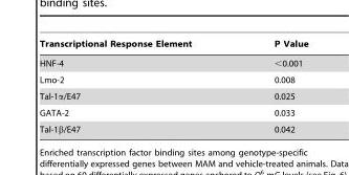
<table><thead><tr><td>Transcriptional Response Element</td><td>P Value</td></tr></thead><tbody><tr><td>HNF-4</td><td>&lt;0.001</td></tr><tr><td>Lmo-2</td><td>0.008</td></tr><tr><td>Tal-1α/E47</td><td>0.025</td></tr><tr><td>GATA-2</td><td>0.033</td></tr><tr><td>Tal-1β/E47</td><td>0.042</td></tr></tbody></table>